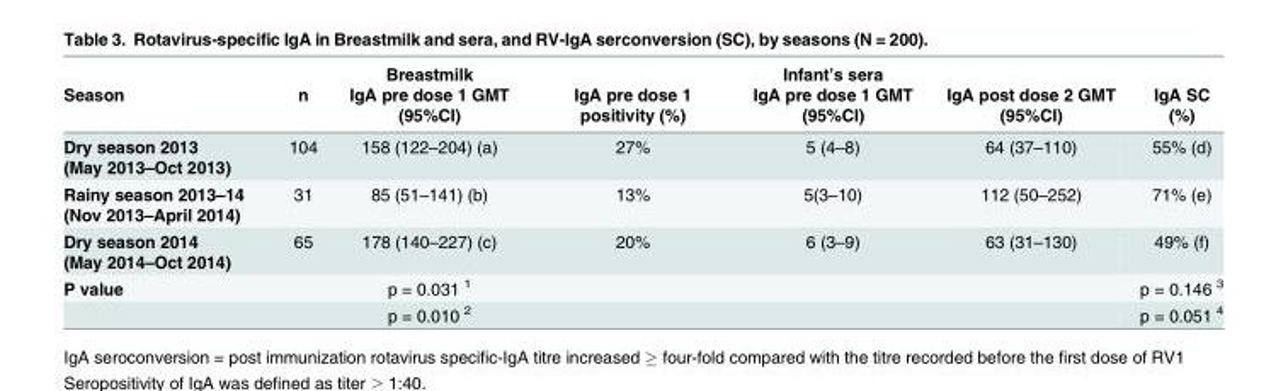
<table><thead><tr><td rowspan="2">Season</td><td rowspan="2">n</td><td rowspan="2">Breastmilk IgA pre dose 1 GMT (95%CI)</td><td rowspan="2">IgA pre dose 1 positivity (%)</td><td rowspan="2">Infant’s sera IgA pre dose 1 GMT (95%CI)</td><td rowspan="2">IgA post dose 2 GMT (95%CI)</td><td rowspan="2">IgA SC (%)</td></tr><tr></tr></thead><tbody><tr><td>Dry season 2013 (May 2013–Oct 2013)</td><td>104</td><td>158 (122–204) (a)</td><td>27%</td><td>5 (4–8)</td><td>64 (37–110)</td><td>55% (d)</td></tr><tr><td>Rainy season 2013–14 (Nov 2013–April 2014)</td><td>31</td><td>85 (51–141) (b)</td><td>13%</td><td>5(3–10)</td><td>112 (50–252)</td><td>71% (e)</td></tr><tr><td>Dry season 2014 (May 2014–Oct 2014)</td><td>65</td><td>178 (140–227) (c)</td><td>20%</td><td>6 (3–9)</td><td>63 (31–130)</td><td>49% (f)</td></tr><tr><td rowspan="2">P value</td><td></td><td>p = 0.031 <sup>1</sup></td><td></td><td></td><td></td><td>p = 0.146 <sup>3</sup></td></tr><tr><td></td><td>p = 0.010 <sup>2</sup></td><td></td><td></td><td></td><td>p = 0.051 <sup>4</sup></td></tr></tbody></table>